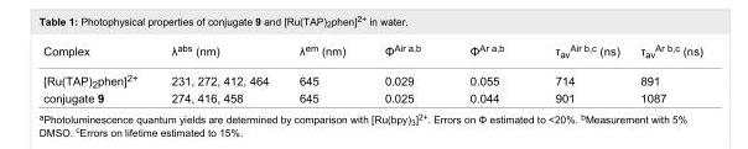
<table><tbody><tr><td>Complex</td><td>λ<sup>abs</sup> (nm)</td><td>λ<sup>em</sup> (nm)</td><td>Φ<sup>Air a,b</sup></td><td>Φ<sup>Ar a,b</sup></td><td>τ<sub>av</sub><sup>Air b,c</sup> (ns)</td><td>τ<sub>av</sub><sup>Ar b,c</sup> (ns)</td></tr><tr><td>[Ru(TAP)<sub>2</sub>phen]<sup>2+</sup></td><td>231, 272, 412, 464</td><td>645</td><td>0.029</td><td>0.055</td><td>714</td><td>891</td></tr><tr><td>conjugate 9</td><td>274, 416, 458</td><td>645</td><td>0.025</td><td>0.044</td><td>901</td><td>1087</td></tr></tbody></table>